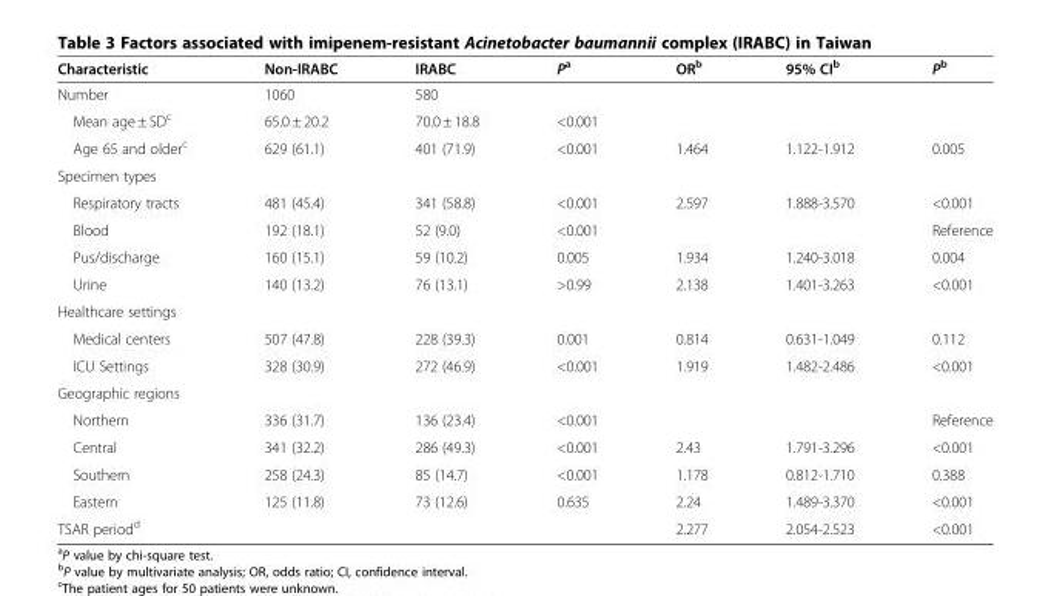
<table><thead><tr><td>Characteristic</td><td>Non-IRABC</td><td>IRABC</td><td>P<sup>a</sup></td><td>OR<sup>b</sup></td><td>95% CI<sup>b</sup></td><td>P<sup>b</sup></td></tr></thead><tbody><tr><td>Number</td><td>1060</td><td>580</td><td></td><td></td><td></td><td></td></tr><tr><td>Mean age ± SD<sup>c</sup></td><td>65.0 ± 20.2</td><td>70.0 ± 18.8</td><td>&lt;0.001</td><td></td><td></td><td></td></tr><tr><td>Age 65 and older<sup>c</sup></td><td>629 (61.1)</td><td>401 (71.9)</td><td>&lt;0.001</td><td>1.464</td><td>1.122-1.912</td><td>0.005</td></tr><tr><td colspan="7">Specimen types</td></tr><tr><td>Respiratory tracts</td><td>481 (45.4)</td><td>341 (58.8)</td><td>&lt;0.001</td><td>2.597</td><td>1.888-3.570</td><td>&lt;0.001</td></tr><tr><td>Blood</td><td>192 (18.1)</td><td>52 (9.0)</td><td>&lt;0.001</td><td></td><td></td><td>Reference</td></tr><tr><td>Pus/discharge</td><td>160 (15.1)</td><td>59 (10.2)</td><td>0.005</td><td>1.934</td><td>1.240-3.018</td><td>0.004</td></tr><tr><td>Urine</td><td>140 (13.2)</td><td>76 (13.1)</td><td>&gt;0.99</td><td>2.138</td><td>1.401-3.263</td><td>&lt;0.001</td></tr><tr><td colspan="7">Healthcare settings</td></tr><tr><td>Medical centers</td><td>507 (47.8)</td><td>228 (39.3)</td><td>0.001</td><td>0.814</td><td>0.631-1.049</td><td>0.112</td></tr><tr><td>ICU Settings</td><td>328 (30.9)</td><td>272 (46.9)</td><td>&lt;0.001</td><td>1.919</td><td>1.482-2.486</td><td>&lt;0.001</td></tr><tr><td colspan="7">Geographic regions</td></tr><tr><td>Northern</td><td>336 (31.7)</td><td>136 (23.4)</td><td>&lt;0.001</td><td></td><td></td><td>Reference</td></tr><tr><td>Central</td><td>341 (32.2)</td><td>286 (49.3)</td><td>&lt;0.001</td><td>2.43</td><td>1.791-3.296</td><td>&lt;0.001</td></tr><tr><td>Southern</td><td>258 (24.3)</td><td>85 (14.7)</td><td>&lt;0.001</td><td>1.178</td><td>0.812-1.710</td><td>0.388</td></tr><tr><td>Eastern</td><td>125 (11.8)</td><td>73 (12.6)</td><td>0.635</td><td>2.24</td><td>1.489-3.370</td><td>&lt;0.001</td></tr><tr><td>TSAR period<sup>d</sup></td><td></td><td></td><td></td><td>2.277</td><td>2.054-2.523</td><td>&lt;0.001</td></tr></tbody></table>